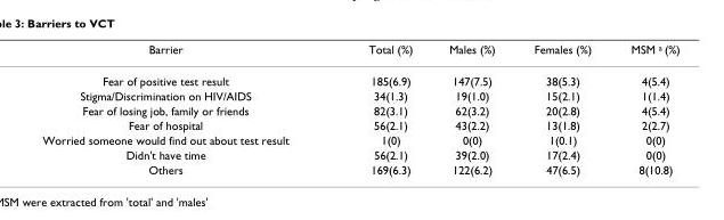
<table><thead><tr><td>Barrier</td><td>Total (%)</td><td>Males (%)</td><td>Females (%)</td><td>MSM <sup>a</sup> (%)</td></tr></thead><tbody><tr><td>Fear of positive test result</td><td>185(6.9)</td><td>147(7.5)</td><td>38(5.3)</td><td>4(5.4)</td></tr><tr><td>Stigma/Discrimination on HIV/AIDS</td><td>34(1.3)</td><td>19(1.0)</td><td>15(2.1)</td><td>1(1.4)</td></tr><tr><td>Fear of losing job, family or friends</td><td>82(3.1)</td><td>62(3.2)</td><td>20(2.8)</td><td>4(5.4)</td></tr><tr><td>Fear of hospital</td><td>56(2.1)</td><td>43(2.2)</td><td>13(1.8)</td><td>2(2.7)</td></tr><tr><td>Worried someone would find out about test result</td><td>1(0)</td><td>0(0)</td><td>1(0.1)</td><td>0(0)</td></tr><tr><td>Didn&#x27;t have time</td><td>56(2.1)</td><td>39(2.0)</td><td>17(2.4)</td><td>0(0)</td></tr><tr><td>Others</td><td>169(6.3)</td><td>122(6.2)</td><td>47(6.5)</td><td>8(10.8)</td></tr></tbody></table>